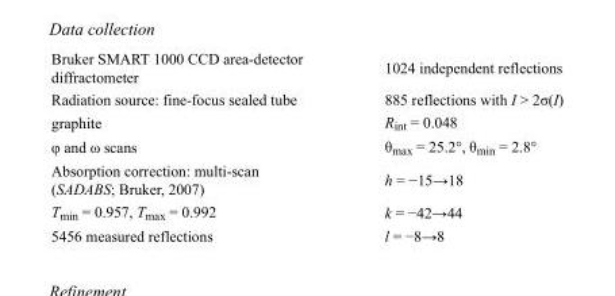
<table><tbody><tr><td>Bruker SMART 1000 CCD area-detector diffractometer</td><td>1024 independent reflections</td></tr><tr><td>Radiation source: fine-focus sealed tube</td><td>885 reflections with I &gt; 2σ(I)</td></tr><tr><td>graphite</td><td>R<sub>int</sub> = 0.048</td></tr><tr><td>φ and ω scans</td><td>θ<sub>max</sub> = 25.2°, θ<sub>min</sub> = 2.8°</td></tr><tr><td>Absorption correction: multi-scan (SADABS; Bruker, 2007)</td><td>h = −15→18</td></tr><tr><td>T<sub>min</sub> = 0.957, T<sub>max</sub> = 0.992</td><td>k = −42→44</td></tr><tr><td>5456 measured reflections</td><td>l = −8→8</td></tr></tbody></table>